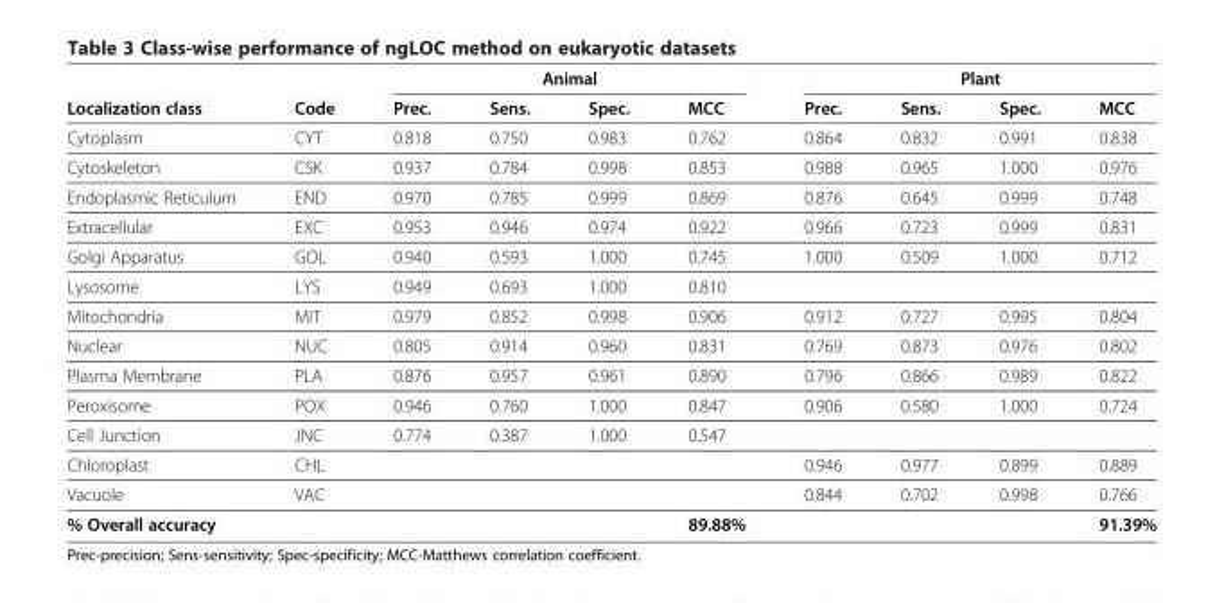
<table><thead><tr><td rowspan="2">Localization class</td><td rowspan="2">Code</td><td colspan="4">Animal</td><td colspan="4">Plant</td></tr><tr><td>Prec.</td><td>Sens.</td><td>Spec.</td><td>MCC</td><td>Prec.</td><td>Sens.</td><td>Spec.</td><td>MCC</td></tr></thead><tbody><tr><td>Cytoplasm</td><td>CYT</td><td>0.818</td><td>0.750</td><td>0.983</td><td>0.762</td><td>0.864</td><td>0.832</td><td>0.991</td><td>0.838</td></tr><tr><td>Cytoskeleton</td><td>CSK</td><td>0.937</td><td>0.784</td><td>0.998</td><td>0.853</td><td>0.988</td><td>0.965</td><td>1.000</td><td>0.976</td></tr><tr><td>Endoplasmic Reticulum</td><td>END</td><td>0.970</td><td>0.785</td><td>0.999</td><td>0.869</td><td>0.876</td><td>0.645</td><td>0.999</td><td>0.748</td></tr><tr><td>Extracellular</td><td>EXC</td><td>0.953</td><td>0.946</td><td>0.974</td><td>0.922</td><td>0.966</td><td>0.723</td><td>0.999</td><td>0.831</td></tr><tr><td>Golgi Apparatus</td><td>GOL</td><td>0.940</td><td>0.593</td><td>1.000</td><td>0.745</td><td>1.000</td><td>0.509</td><td>1.000</td><td>0.712</td></tr><tr><td>Lysosome</td><td>LYS</td><td>0.949</td><td>0.693</td><td>1.000</td><td>0.810</td><td></td><td></td><td></td><td></td></tr><tr><td>Mitochondria</td><td>MIT</td><td>0.979</td><td>0.852</td><td>0.998</td><td>0.906</td><td>0.912</td><td>0.727</td><td>0.995</td><td>0.804</td></tr><tr><td>Nuclear</td><td>NUC</td><td>0.805</td><td>0.914</td><td>0.960</td><td>0.831</td><td>0.769</td><td>0.873</td><td>0.976</td><td>0.802</td></tr><tr><td>Plasma Membrane</td><td>PLA</td><td>0.876</td><td>0.957</td><td>0.961</td><td>0.890</td><td>0.796</td><td>0.866</td><td>0.989</td><td>0.822</td></tr><tr><td>Peroxisome</td><td>POX</td><td>0.946</td><td>0.760</td><td>1.000</td><td>0.847</td><td>0.906</td><td>0.580</td><td>1.000</td><td>0.724</td></tr><tr><td>Cell Junction</td><td>JNC</td><td>0.774</td><td>0.387</td><td>1.000</td><td>0.547</td><td></td><td></td><td></td><td></td></tr><tr><td>Chloroplast</td><td>CHL</td><td></td><td></td><td></td><td></td><td>0.946</td><td>0.977</td><td>0.899</td><td>0.889</td></tr><tr><td>Vacuole</td><td>VAC</td><td></td><td></td><td></td><td></td><td>0.844</td><td>0.702</td><td>0.998</td><td>0.766</td></tr><tr><td>% Overall accuracy</td><td></td><td></td><td></td><td></td><td>89.88%</td><td></td><td></td><td></td><td>91.39%</td></tr></tbody></table>